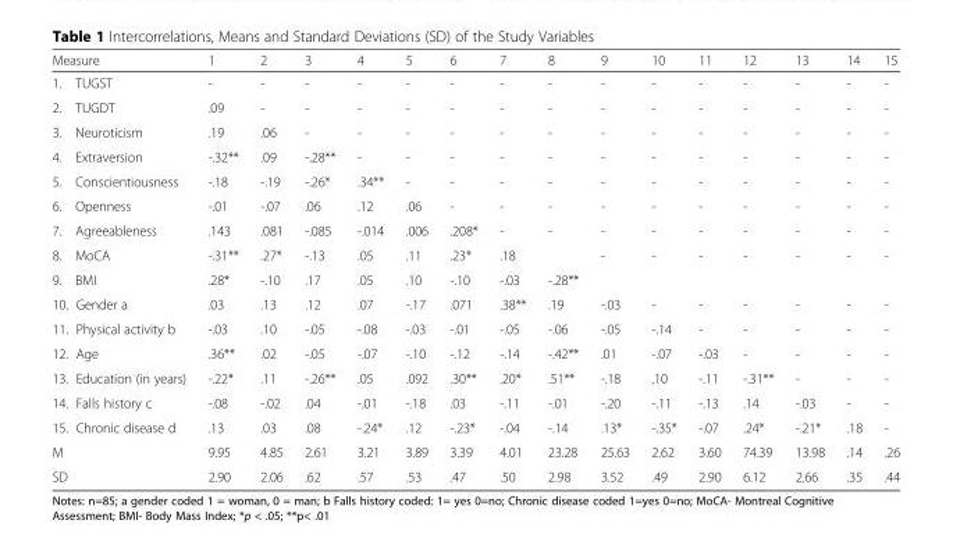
<table><thead><tr><td>Measure</td><td>1</td><td>2</td><td>3</td><td>4</td><td>5</td><td>6</td><td>7</td><td>8</td><td>9</td><td>10</td><td>11</td><td>12</td><td>13</td><td>14</td><td>15</td></tr></thead><tbody><tr><td>1. TUGST</td><td>-</td><td>-</td><td>-</td><td>-</td><td>-</td><td>-</td><td>-</td><td>-</td><td>-</td><td>-</td><td>-</td><td>-</td><td>-</td><td>-</td><td>-</td></tr><tr><td>2. TUGDT</td><td>.09</td><td>-</td><td>-</td><td>-</td><td>-</td><td>-</td><td>-</td><td>-</td><td>-</td><td>-</td><td>-</td><td>-</td><td>-</td><td>-</td><td>-</td></tr><tr><td>3. Neuroticism</td><td>.19</td><td>.06</td><td>-</td><td>-</td><td>-</td><td>-</td><td>-</td><td>-</td><td>-</td><td>-</td><td>-</td><td>-</td><td>-</td><td>-</td><td>-</td></tr><tr><td>4. Extraversion</td><td>-.32**</td><td>.09</td><td>-.28**</td><td>-</td><td>-</td><td>-</td><td>-</td><td>-</td><td>-</td><td>-</td><td>-</td><td>-</td><td>-</td><td>-</td><td>-</td></tr><tr><td>5. Conscientiousness</td><td>-.18</td><td>-.19</td><td>-.26*</td><td>.34**</td><td>-</td><td>-</td><td>-</td><td>-</td><td>-</td><td>-</td><td>-</td><td>-</td><td>-</td><td>-</td><td>-</td></tr><tr><td>6. Openness</td><td>-.01</td><td>-.07</td><td>.06</td><td>.12</td><td>.06</td><td>-</td><td>-</td><td>-</td><td>-</td><td>-</td><td>-</td><td>-</td><td>-</td><td>-</td><td>-</td></tr><tr><td>7. Agreeableness</td><td>.143</td><td>.081</td><td>-.085</td><td>-.014</td><td>.006</td><td>.208*</td><td>-</td><td>-</td><td>-</td><td>-</td><td>-</td><td>-</td><td>-</td><td>-</td><td>-</td></tr><tr><td>8. MoCA</td><td>-.31**</td><td>.27*</td><td>-.13</td><td>.05</td><td>.11</td><td>.23*</td><td>.18</td><td></td><td>-</td><td>-</td><td>-</td><td>-</td><td>-</td><td>-</td><td>-</td></tr><tr><td>9. BMI</td><td>.28*</td><td>-.10</td><td>.17</td><td>.05</td><td>.10</td><td>-.10</td><td>-.03</td><td>-.28**</td><td></td><td></td><td></td><td></td><td></td><td></td><td></td></tr><tr><td>10. Gender a</td><td>.03</td><td>.13</td><td>.12</td><td>.07</td><td>-.17</td><td>.071</td><td>.38**</td><td>.19</td><td>-.03</td><td>-</td><td>-</td><td>-</td><td>-</td><td>-</td><td>-</td></tr><tr><td>11. Physical activity b</td><td>-.03</td><td>.10</td><td>-.05</td><td>-.08</td><td>-.03</td><td>-.01</td><td>-.05</td><td>-.06</td><td>-.05</td><td>-.14</td><td>-</td><td>-</td><td>-</td><td>-</td><td>-</td></tr><tr><td>12. Age</td><td>.36**</td><td>.02</td><td>-.05</td><td>-.07</td><td>-.10</td><td>-.12</td><td>-.14</td><td>-.42**</td><td>.01</td><td>-.07</td><td>-.03</td><td>-</td><td>-</td><td>-</td><td>-</td></tr><tr><td>13. Education (in years)</td><td>-.22*</td><td>.11</td><td>-.26**</td><td>.05</td><td>.092</td><td>.30**</td><td>.20*</td><td>.51**</td><td>-.18</td><td>.10</td><td>-.11</td><td>-.31**</td><td>-</td><td>-</td><td>-</td></tr><tr><td>14. Falls history c</td><td>-.08</td><td>-.02</td><td>.04</td><td>-.01</td><td>-.18</td><td>.03</td><td>-.11</td><td>-.01</td><td>-.20</td><td>-.11</td><td>-.13</td><td>.14</td><td>-.03</td><td>-</td><td>-</td></tr><tr><td>15. Chronic disease d</td><td>.13</td><td>.03</td><td>.08</td><td>-.24*</td><td>.12</td><td>-.23*</td><td>-.04</td><td>-.14</td><td>.13*</td><td>-.35*</td><td>-.07</td><td>.24*</td><td>-.21*</td><td>.18</td><td>-</td></tr><tr><td>M</td><td>9.95</td><td>4.85</td><td>2.61</td><td>3.21</td><td>3.89</td><td>3.39</td><td>4.01</td><td>23.28</td><td>25.63</td><td>2.62</td><td>3.60</td><td>74.39</td><td>13.98</td><td>.14</td><td>.26</td></tr><tr><td>SD</td><td>2.90</td><td>2.06</td><td>.62</td><td>.57</td><td>.53</td><td>.47</td><td>.50</td><td>2.98</td><td>3.52</td><td>.49</td><td>2.90</td><td>6.12</td><td>2.66</td><td>.35</td><td>.44</td></tr></tbody></table>